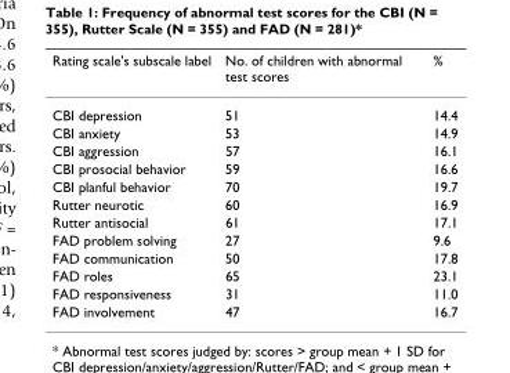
<table><thead><tr><td>Rating scale&#x27;s subscale label</td><td>No. of children with abnormal test scores</td><td>%</td></tr></thead><tbody><tr><td>CBI depression</td><td>51</td><td>14.4</td></tr><tr><td>CBI anxiety</td><td>53</td><td>14.9</td></tr><tr><td>CBI aggression</td><td>57</td><td>16.1</td></tr><tr><td>CBI prosocial behavior</td><td>59</td><td>16.6</td></tr><tr><td>CBI planful behavior</td><td>70</td><td>19.7</td></tr><tr><td>Rutter neurotic</td><td>60</td><td>16.9</td></tr><tr><td>Rutter antisocial</td><td>61</td><td>17.1</td></tr><tr><td>FAD problem solving</td><td>27</td><td>9.6</td></tr><tr><td>FAD communication</td><td>50</td><td>17.8</td></tr><tr><td>FAD roles</td><td>65</td><td>23.1</td></tr><tr><td>FAD responsiveness</td><td>31</td><td>11.0</td></tr><tr><td>FAD involvement</td><td>47</td><td>16.7</td></tr></tbody></table>